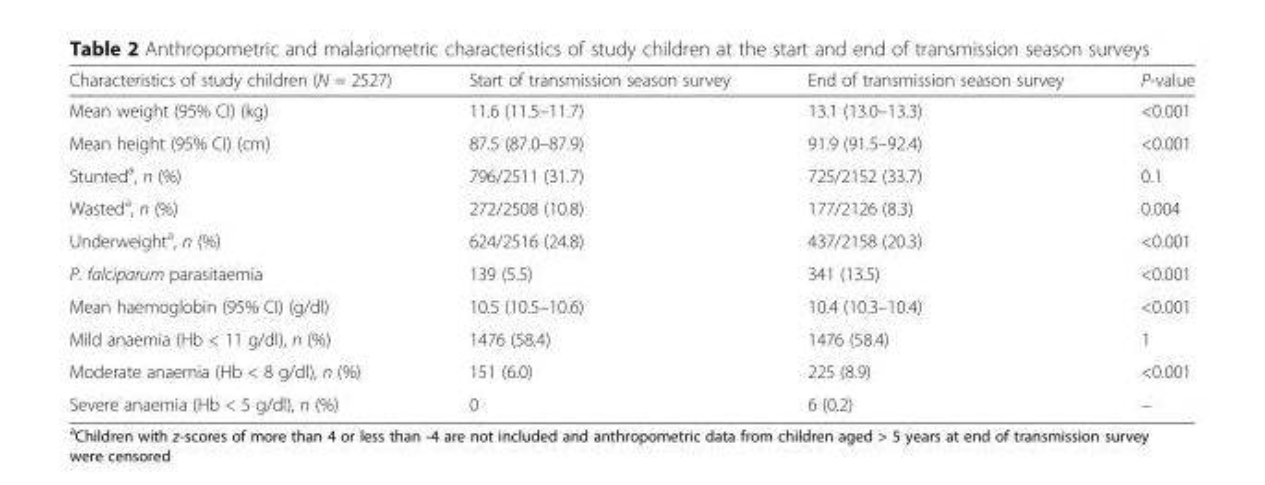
<table><thead><tr><td>Characteristics of study children (N = 2527)</td><td>Start of transmission season survey</td><td>End of transmission season survey</td><td>P-value</td></tr></thead><tbody><tr><td>Mean weight (95% CI) (kg)</td><td>11.6 (11.5–11.7)</td><td>13.1 (13.0–13.3)</td><td>&lt;0.001</td></tr><tr><td>Mean height (95% CI) (cm)</td><td>87.5 (87.0–87.9)</td><td>91.9 (91.5–92.4)</td><td>&lt;0.001</td></tr><tr><td>Stunted<sup>a</sup>, n (%)</td><td>796/2511 (31.7)</td><td>725/2152 (33.7)</td><td>0.1</td></tr><tr><td>Wasted<sup>a</sup>, n (%)</td><td>272/2508 (10.8)</td><td>177/2126 (8.3)</td><td>0.004</td></tr><tr><td>Underweight<sup>a</sup>, n (%)</td><td>624/2516 (24.8)</td><td>437/2158 (20.3)</td><td>&lt;0.001</td></tr><tr><td>P. falciparum parasitaemia</td><td>139 (5.5)</td><td>341 (13.5)</td><td>&lt;0.001</td></tr><tr><td>Mean haemoglobin (95% CI) (g/dl)</td><td>10.5 (10.5–10.6)</td><td>10.4 (10.3–10.4)</td><td>&lt;0.001</td></tr><tr><td>Mild anaemia (Hb &lt; 11 g/dl), n (%)</td><td>1476 (58.4)</td><td>1476 (58.4)</td><td>1</td></tr><tr><td>Moderate anaemia (Hb &lt; 8 g/dl), n (%)</td><td>151 (6.0)</td><td>225 (8.9)</td><td>&lt;0.001</td></tr><tr><td>Severe anaemia (Hb &lt; 5 g/dl), n (%)</td><td>0</td><td>6 (0.2)</td><td>–</td></tr></tbody></table>